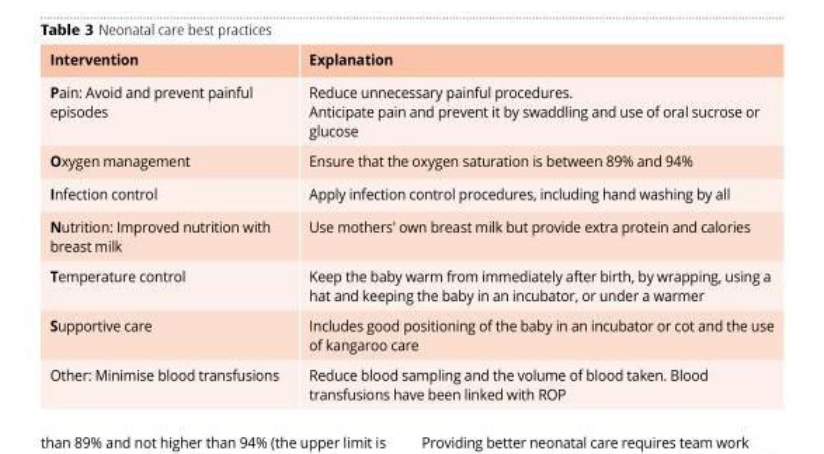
<table><thead><tr><td>Intervention</td><td>Explanation</td></tr></thead><tbody><tr><td>Pain: Avoid and prevent painful episodes</td><td>Reduce unnecessary painful procedures. Anticipate pain and prevent it by swaddling and use of oral sucrose or glucose</td></tr><tr><td>Oxygen management</td><td>Ensure that the oxygen saturation is between 89% and 94%</td></tr><tr><td>Infection control</td><td>Apply infection control procedures, including hand washing by all</td></tr><tr><td>Nutrition: Improved nutrition with breast milk</td><td>Use mothers&#x27; own breast milk but provide extra protein and calories</td></tr><tr><td>Temperature control</td><td>Keep the baby warm from immediately after birth, by wrapping, using a hat and keeping the baby in an incubator, or under a warmer</td></tr><tr><td>Supportive care</td><td>Includes good positioning of the baby in an incubator or cot and the use of kangaroo care</td></tr><tr><td>Other: Minimise blood transfusions</td><td>Reduce blood sampling and the volume of blood taken. Blood transfusions have been linked with ROP</td></tr></tbody></table>